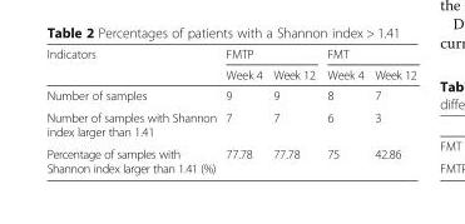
<table><thead><tr><td rowspan="2">Indicators</td><td colspan="2">FMTP</td><td colspan="2">FMT</td></tr><tr><td>Week 4</td><td>Week 12</td><td>Week 4</td><td>Week 12</td></tr></thead><tbody><tr><td>Number of samples</td><td>9</td><td>9</td><td>8</td><td>7</td></tr><tr><td>Number of samples with Shannon index larger than 1.41</td><td>7</td><td>7</td><td>6</td><td>3</td></tr><tr><td>Percentage of samples with Shannon index larger than 1.41 (%)</td><td>77.78</td><td>77.78</td><td>75</td><td>42.86</td></tr></tbody></table>